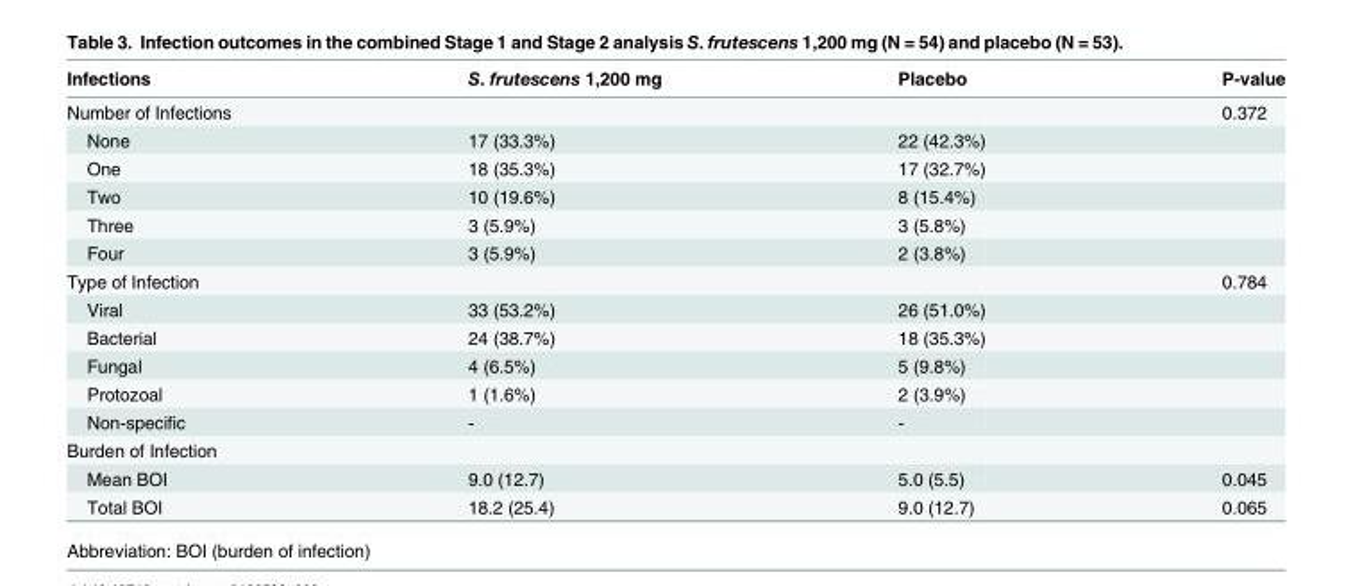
<table><thead><tr><td>Infections</td><td>S. frutescens 1,200 mg</td><td>Placebo</td><td>P-value</td></tr></thead><tbody><tr><td>Number of Infections</td><td></td><td></td><td>0.372</td></tr><tr><td>None</td><td>17 (33.3%)</td><td>22 (42.3%)</td><td></td></tr><tr><td>One</td><td>18 (35.3%)</td><td>17 (32.7%)</td><td></td></tr><tr><td>Two</td><td>10 (19.6%)</td><td>8 (15.4%)</td><td></td></tr><tr><td>Three</td><td>3 (5.9%)</td><td>3 (5.8%)</td><td></td></tr><tr><td>Four</td><td>3 (5.9%)</td><td>2 (3.8%)</td><td></td></tr><tr><td>Type of Infection</td><td></td><td></td><td>0.784</td></tr><tr><td>Viral</td><td>33 (53.2%)</td><td>26 (51.0%)</td><td></td></tr><tr><td>Bacterial</td><td>24 (38.7%)</td><td>18 (35.3%)</td><td></td></tr><tr><td>Fungal</td><td>4 (6.5%)</td><td>5 (9.8%)</td><td></td></tr><tr><td>Protozoal</td><td>1 (1.6%)</td><td>2 (3.9%)</td><td></td></tr><tr><td>Non-specific</td><td>-</td><td>-</td><td></td></tr><tr><td colspan="4">Burden of Infection</td></tr><tr><td>Mean BOI</td><td>9.0 (12.7)</td><td>5.0 (5.5)</td><td>0.045</td></tr><tr><td>Total BOI</td><td>18.2 (25.4)</td><td>9.0 (12.7)</td><td>0.065</td></tr></tbody></table>